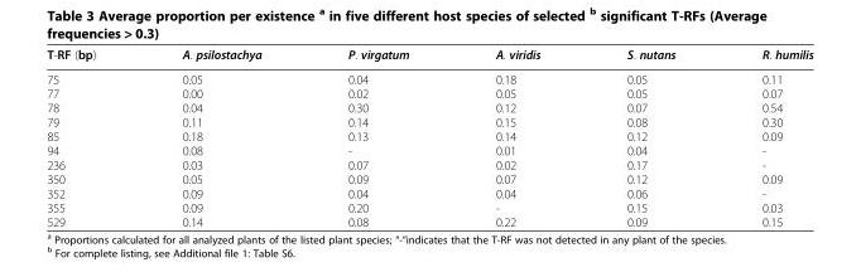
<table><thead><tr><td>T-RF (bp)</td><td>A. psilostachya</td><td>P. virgatum</td><td>A. viridis</td><td>S. nutans</td><td>R. humilis</td></tr></thead><tbody><tr><td>75</td><td>0.05</td><td>0.04</td><td>0.18</td><td>0.05</td><td>0.11</td></tr><tr><td>77</td><td>0.00</td><td>0.02</td><td>0.05</td><td>0.05</td><td>0.07</td></tr><tr><td>78</td><td>0.04</td><td>0.30</td><td>0.12</td><td>0.07</td><td>0.54</td></tr><tr><td>79</td><td>0.11</td><td>0.14</td><td>0.15</td><td>0.08</td><td>0.30</td></tr><tr><td>85</td><td>0.18</td><td>0.13</td><td>0.14</td><td>0.12</td><td>0.09</td></tr><tr><td>94</td><td>0.08</td><td>-</td><td>0.01</td><td>0.04</td><td>-</td></tr><tr><td>236</td><td>0.03</td><td>0.07</td><td>0.02</td><td>0.17</td><td>-</td></tr><tr><td>350</td><td>0.05</td><td>0.09</td><td>0.07</td><td>0.12</td><td>0.09</td></tr><tr><td>352</td><td>0.09</td><td>0.04</td><td>0.04</td><td>0.06</td><td>-</td></tr><tr><td>355</td><td>0.09</td><td>0.20</td><td>-</td><td>0.15</td><td>0.03</td></tr><tr><td>529</td><td>0.14</td><td>0.08</td><td>0.22</td><td>0.09</td><td>0.15</td></tr></tbody></table>